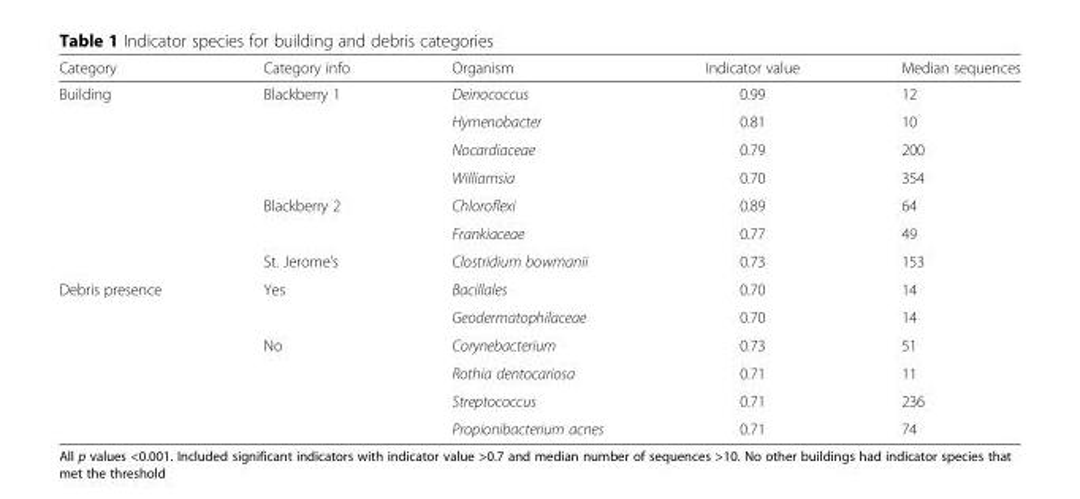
<table><thead><tr><td>Category</td><td>Category info</td><td>Organism</td><td>Indicator value</td><td>Median sequences</td></tr></thead><tbody><tr><td rowspan="7">Building</td><td rowspan="4">Blackberry 1</td><td>Deinococcus</td><td>0.99</td><td>12</td></tr><tr><td>Hymenobacter</td><td>0.81</td><td>10</td></tr><tr><td>Nocardiaceae</td><td>0.79</td><td>200</td></tr><tr><td>Williamsia</td><td>0.70</td><td>354</td></tr><tr><td rowspan="2">Blackberry 2</td><td>Chloroflexi</td><td>0.89</td><td>64</td></tr><tr><td>Frankiaceae</td><td>0.77</td><td>49</td></tr><tr><td>St. Jerome’s</td><td>Clostridium bowmanii</td><td>0.73</td><td>153</td></tr><tr><td rowspan="6">Debris presence</td><td>Yes</td><td>Bacillales</td><td>0.70</td><td>14</td></tr><tr><td></td><td>Geodermatophilaceae</td><td>0.70</td><td>14</td></tr><tr><td rowspan="4">No</td><td>Corynebacterium</td><td>0.73</td><td>51</td></tr><tr><td>Rothia dentocariosa</td><td>0.71</td><td>11</td></tr><tr><td>Streptococcus</td><td>0.71</td><td>236</td></tr><tr><td>Propionibacterium acnes</td><td>0.71</td><td>74</td></tr></tbody></table>